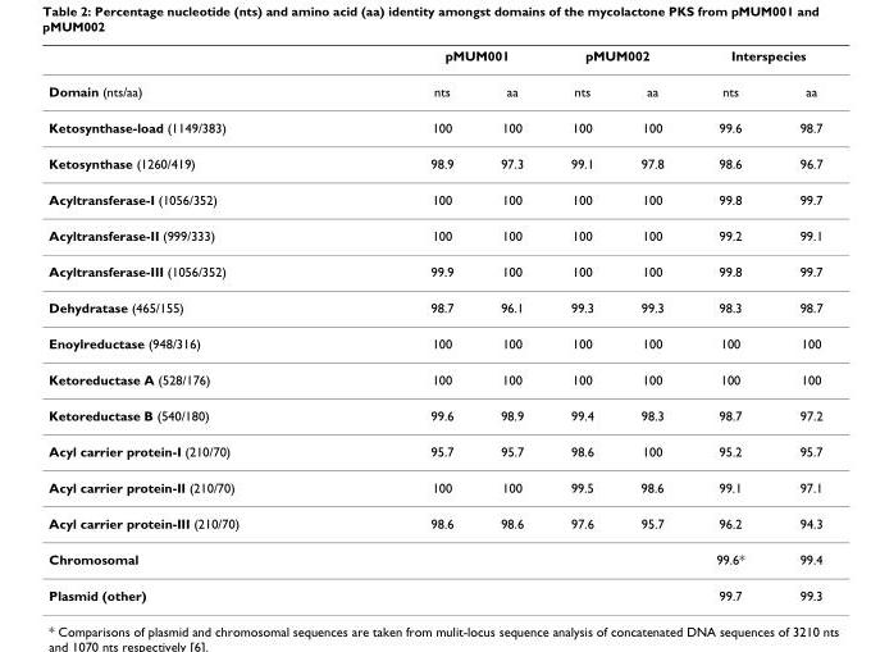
<table><thead><tr><td rowspan="2">Domain (nts/aa)</td><td colspan="2">pMUM001</td><td colspan="2">pMUM002</td><td colspan="2">Interspecies</td></tr><tr><td>nts</td><td>aa</td><td>nts</td><td>aa</td><td>nts</td><td>aa</td></tr></thead><tbody><tr><td>Ketosynthase-load (1149/383)</td><td>100</td><td>100</td><td>100</td><td>100</td><td>99.6</td><td>98.7</td></tr><tr><td>Ketosynthase (1260/419)</td><td>98.9</td><td>97.3</td><td>99.1</td><td>97.8</td><td>98.6</td><td>96.7</td></tr><tr><td>Acyltransferase-I (1056/352)</td><td>100</td><td>100</td><td>100</td><td>100</td><td>99.8</td><td>99.7</td></tr><tr><td>Acyltransferase-II (999/333)</td><td>100</td><td>100</td><td>100</td><td>100</td><td>99.2</td><td>99.1</td></tr><tr><td>Acyltransferase-III (1056/352)</td><td>99.9</td><td>100</td><td>100</td><td>100</td><td>99.8</td><td>99.7</td></tr><tr><td>Dehydratase (465/155)</td><td>98.7</td><td>96.1</td><td>99.3</td><td>99.3</td><td>98.3</td><td>98.7</td></tr><tr><td>Enoylreductase (948/316)</td><td>100</td><td>100</td><td>100</td><td>100</td><td>100</td><td>100</td></tr><tr><td>Ketoreductase A (528/176)</td><td>100</td><td>100</td><td>100</td><td>100</td><td>100</td><td>100</td></tr><tr><td>Ketoreductase B (540/180)</td><td>99.6</td><td>98.9</td><td>99.4</td><td>98.3</td><td>98.7</td><td>97.2</td></tr><tr><td>Acyl carrier protein-I (210/70)</td><td>95.7</td><td>95.7</td><td>98.6</td><td>100</td><td>95.2</td><td>95.7</td></tr><tr><td>Acyl carrier protein-II (210/70)</td><td>100</td><td>100</td><td>99.5</td><td>98.6</td><td>99.1</td><td>97.1</td></tr><tr><td>Acyl carrier protein-III (210/70)</td><td>98.6</td><td>98.6</td><td>97.6</td><td>95.7</td><td>96.2</td><td>94.3</td></tr><tr><td>Chromosomal</td><td></td><td></td><td></td><td></td><td>99.6*</td><td>99.4</td></tr><tr><td>Plasmid (other)</td><td></td><td></td><td></td><td></td><td>99.7</td><td>99.3</td></tr></tbody></table>